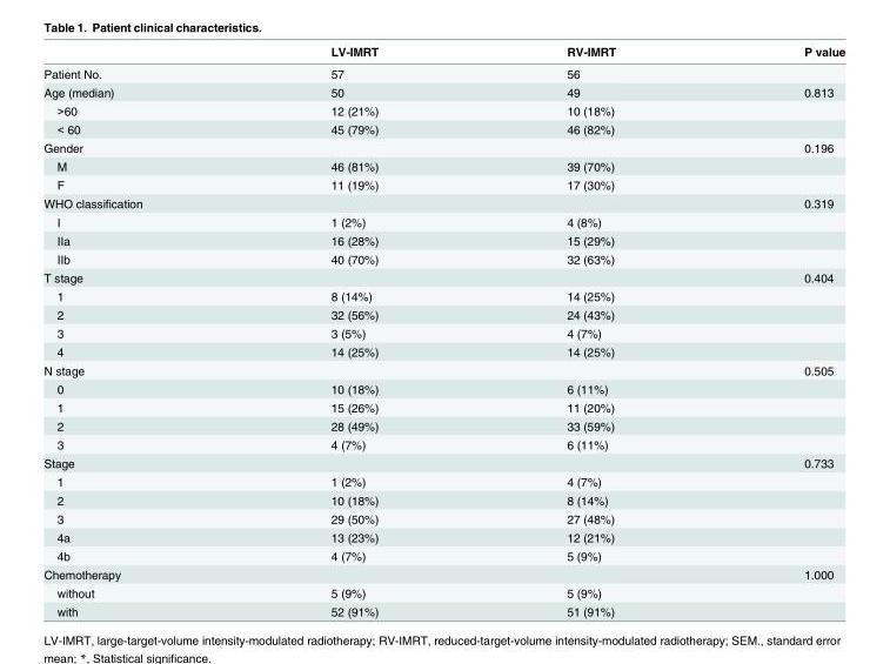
<table><thead><tr><td></td><td>LV-IMRT</td><td>RV-IMRT</td><td>P value</td></tr></thead><tbody><tr><td>Patient No.</td><td>57</td><td>56</td><td></td></tr><tr><td>Age (median)</td><td>50</td><td>49</td><td>0.813</td></tr><tr><td>&gt;60</td><td>12 (21%)</td><td>10 (18%)</td><td></td></tr><tr><td>&lt; 60</td><td>45 (79%)</td><td>46 (82%)</td><td></td></tr><tr><td>Gender</td><td></td><td></td><td>0.196</td></tr><tr><td>M</td><td>46 (81%)</td><td>39 (70%)</td><td></td></tr><tr><td>F</td><td>11 (19%)</td><td>17 (30%)</td><td></td></tr><tr><td>WHO classification</td><td></td><td></td><td>0.319</td></tr><tr><td>I</td><td>1 (2%)</td><td>4 (8%)</td><td></td></tr><tr><td>IIa</td><td>16 (28%)</td><td>15 (29%)</td><td></td></tr><tr><td>IIb</td><td>40 (70%)</td><td>32 (63%)</td><td></td></tr><tr><td>T stage</td><td></td><td></td><td>0.404</td></tr><tr><td>1</td><td>8 (14%)</td><td>14 (25%)</td><td></td></tr><tr><td>2</td><td>32 (56%)</td><td>24 (43%)</td><td></td></tr><tr><td>3</td><td>3 (5%)</td><td>4 (7%)</td><td></td></tr><tr><td>4</td><td>14 (25%)</td><td>14 (25%)</td><td></td></tr><tr><td>N stage</td><td></td><td></td><td>0.505</td></tr><tr><td>0</td><td>10 (18%)</td><td>6 (11%)</td><td></td></tr><tr><td>1</td><td>15 (26%)</td><td>11 (20%)</td><td></td></tr><tr><td>2</td><td>28 (49%)</td><td>33 (59%)</td><td></td></tr><tr><td>3</td><td>4 (7%)</td><td>6 (11%)</td><td></td></tr><tr><td>Stage</td><td></td><td></td><td>0.733</td></tr><tr><td>1</td><td>1 (2%)</td><td>4 (7%)</td><td></td></tr><tr><td>2</td><td>10 (18%)</td><td>8 (14%)</td><td></td></tr><tr><td>3</td><td>29 (50%)</td><td>27 (48%)</td><td></td></tr><tr><td>4a</td><td>13 (23%)</td><td>12 (21%)</td><td></td></tr><tr><td>4b</td><td>4 (7%)</td><td>5 (9%)</td><td></td></tr><tr><td>Chemotherapy</td><td></td><td></td><td>1.000</td></tr><tr><td>without</td><td>5 (9%)</td><td>5 (9%)</td><td></td></tr><tr><td>with</td><td>52 (91%)</td><td>51 (91%)</td><td></td></tr></tbody></table>